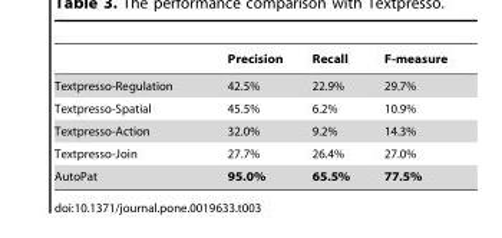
<table><thead><tr><td></td><td>Precision</td><td>Recall</td><td>F-measure</td></tr></thead><tbody><tr><td>Textpresso-Regulation</td><td>42.5%</td><td>22.9%</td><td>29.7%</td></tr><tr><td>Textpresso-Spatial</td><td>45.5%</td><td>6.2%</td><td>10.9%</td></tr><tr><td>Textpresso-Action</td><td>32.0%</td><td>9.2%</td><td>14.3%</td></tr><tr><td>Textpresso-Join</td><td>27.7%</td><td>26.4%</td><td>27.0%</td></tr><tr><td>AutoPat</td><td>95.0%</td><td>65.5%</td><td>77.5%</td></tr></tbody></table>